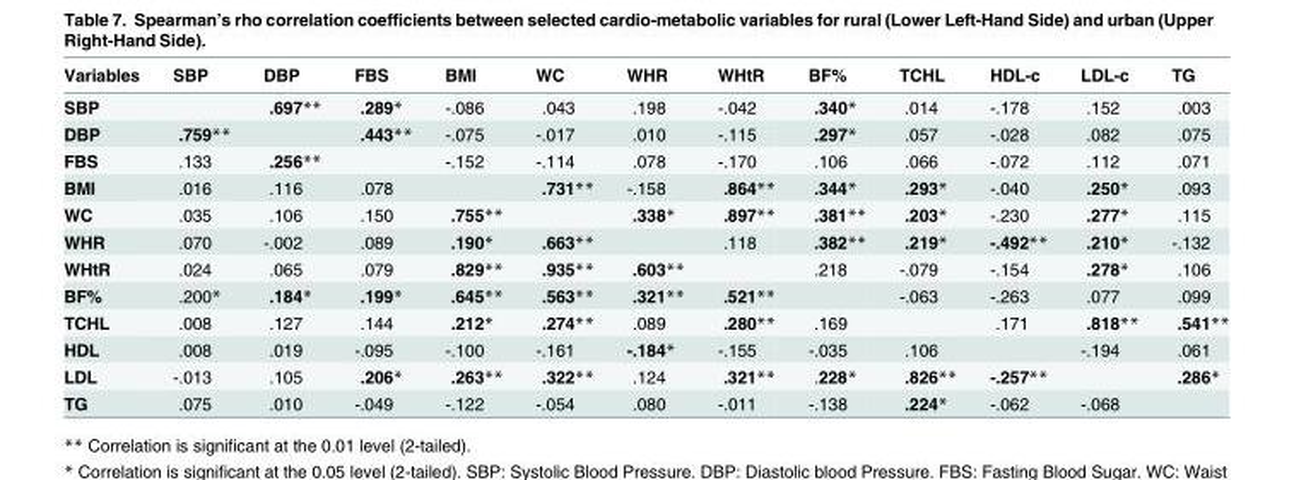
<table><thead><tr><td>Variables</td><td>SBP</td><td>DBP</td><td>FBS</td><td>BMI</td><td>WC</td><td>WHR</td><td>WHtR</td><td>BF%</td><td>TCHL</td><td>HDL-c</td><td>LDL-c</td><td>TG</td></tr></thead><tbody><tr><td>SBP</td><td></td><td>.697**</td><td>.289*</td><td>-.086</td><td>.043</td><td>.198</td><td>-.042</td><td>.340*</td><td>.014</td><td>-.178</td><td>.152</td><td>.003</td></tr><tr><td>DBP</td><td>.759**</td><td></td><td>.443**</td><td>-.075</td><td>-.017</td><td>.010</td><td>-.115</td><td>.297*</td><td>.057</td><td>-.028</td><td>.082</td><td>.075</td></tr><tr><td>FBS</td><td>.133</td><td>.256**</td><td></td><td>-.152</td><td>-.114</td><td>.078</td><td>-.170</td><td>.106</td><td>.066</td><td>-.072</td><td>.112</td><td>.071</td></tr><tr><td>BMI</td><td>.016</td><td>.116</td><td>.078</td><td></td><td>.731**</td><td>-.158</td><td>.864**</td><td>.344*</td><td>.293*</td><td>-.040</td><td>.250*</td><td>.093</td></tr><tr><td>WC</td><td>.035</td><td>.106</td><td>.150</td><td>.755**</td><td></td><td>.338*</td><td>.897**</td><td>.381**</td><td>.203*</td><td>-.230</td><td>.277*</td><td>.115</td></tr><tr><td>WHR</td><td>.070</td><td>-.002</td><td>.089</td><td>.190*</td><td>.663**</td><td></td><td>.118</td><td>.382**</td><td>.219*</td><td>-.492**</td><td>.210*</td><td>-.132</td></tr><tr><td>WHtR</td><td>.024</td><td>.065</td><td>.079</td><td>.829**</td><td>.935**</td><td>.603**</td><td></td><td>.218</td><td>-.079</td><td>-.154</td><td>.278*</td><td>.106</td></tr><tr><td>BF%</td><td>.200*</td><td>.184*</td><td>.199*</td><td>.645**</td><td>.563**</td><td>.321**</td><td>.521**</td><td></td><td>-.063</td><td>-.263</td><td>.077</td><td>.099</td></tr><tr><td>TCHL</td><td>.008</td><td>.127</td><td>.144</td><td>.212*</td><td>.274**</td><td>.089</td><td>.280**</td><td>.169</td><td></td><td>.171</td><td>.818**</td><td>.541**</td></tr><tr><td>HDL</td><td>.008</td><td>.019</td><td>-.095</td><td>-.100</td><td>-.161</td><td>-.184*</td><td>-.155</td><td>-.035</td><td>.106</td><td></td><td>-.194</td><td>.061</td></tr><tr><td>LDL</td><td>-.013</td><td>.105</td><td>.206*</td><td>.263**</td><td>.322**</td><td>.124</td><td>.321**</td><td>.228*</td><td>.826**</td><td>-.257**</td><td></td><td>.286*</td></tr><tr><td>TG</td><td>.075</td><td>.010</td><td>-.049</td><td>-.122</td><td>-.054</td><td>.080</td><td>-.011</td><td>-.138</td><td>.224*</td><td>-.062</td><td>-.068</td><td></td></tr></tbody></table>